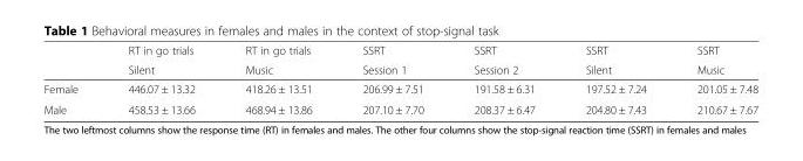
<table><thead><tr><td rowspan="2"></td><td rowspan="2">RT in go trials Silent</td><td rowspan="2">RT in go trials Music</td><td rowspan="2">SSRT Session 1</td><td rowspan="2">SSRT Session 2</td><td rowspan="2">SSRT Silent</td><td rowspan="2">SSRT Music</td></tr><tr></tr></thead><tbody><tr><td>Female</td><td>446.07 ± 13.32</td><td>418.26 ± 13.51</td><td>206.99 ± 7.51</td><td>191.58 ± 6.31</td><td>197.52 ± 7.24</td><td>201.05 ± 7.48</td></tr><tr><td>Male</td><td>458.53 ± 13.66</td><td>468.94 ± 13.86</td><td>207.10 ± 7.70</td><td>208.37 ± 6.47</td><td>204.80 ± 7.43</td><td>210.67 ± 7.67</td></tr></tbody></table>